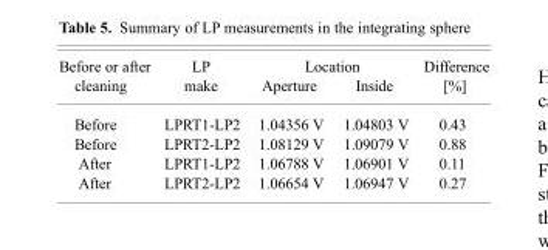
<table><thead><tr><td rowspan="2">Before or after cleaning</td><td rowspan="2">LP make</td><td colspan="2">Location</td><td rowspan="2">Difference [%]</td></tr><tr><td>Aperture</td><td>Inside</td></tr></thead><tbody><tr><td>Before</td><td>LPRT1-LP2</td><td>1.04356 V</td><td>1.04803 V</td><td>0.43</td></tr><tr><td>Before</td><td>LPRT2-LP2</td><td>1.08129 V</td><td>1.09079 V</td><td>0.88</td></tr><tr><td>After</td><td>LPRT1-LP2</td><td>1.06788 V</td><td>1.06901 V</td><td>0.11</td></tr><tr><td>After</td><td>LPRT2-LP2</td><td>1.06654 V</td><td>1.06947 V</td><td>0.27</td></tr></tbody></table>